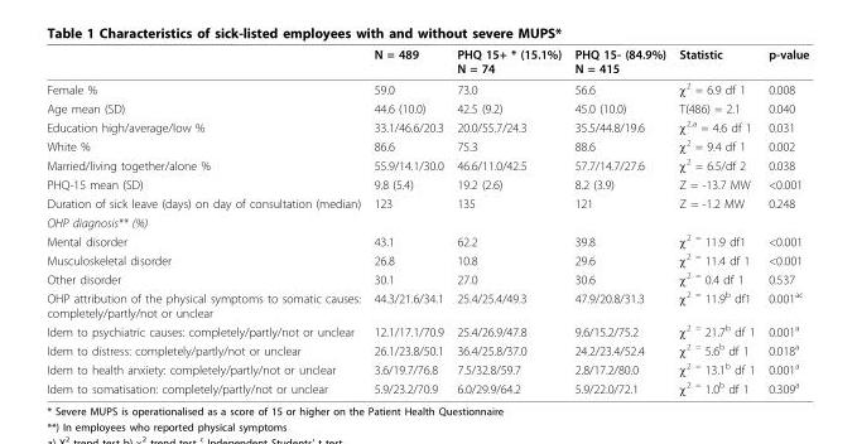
<table><thead><tr><td></td><td>N = 489</td><td>PHQ 15+ * (15.1%) N = 74</td><td>PHQ 15- (84.9%) N = 415</td><td>Statistic</td><td>p-value</td></tr></thead><tbody><tr><td>Female %</td><td>59.0</td><td>73.0</td><td>56.6</td><td>χ<sup>2</sup> = 6.9 df 1</td><td>0.008</td></tr><tr><td>Age mean (SD)</td><td>44.6 (10.0)</td><td>42.5 (9.2)</td><td>45.0 (10.0)</td><td>T(486) = 2.1</td><td>0.040</td></tr><tr><td>Education high/average/low %</td><td>33.1/46.6/20.3</td><td>20.0/55.7/24.3</td><td>35.5/44.8/19.6</td><td>χ<sup>2,a</sup> = 4.6 df 1</td><td>0.031</td></tr><tr><td>White %</td><td>86.6</td><td>75.3</td><td>88.6</td><td>χ<sup>2</sup> = 9.4 df 1</td><td>0.002</td></tr><tr><td>Married/living together/alone %</td><td>55.9/14.1/30.0</td><td>46.6/11.0/42.5</td><td>57.7/14.7/27.6</td><td>χ<sup>2</sup> = 6.5/df 2</td><td>0.038</td></tr><tr><td>PHQ-15 mean (SD)</td><td>9.8 (5.4)</td><td>19.2 (2.6)</td><td>8.2 (3.9)</td><td>Z = -13.7 MW</td><td>&lt;0.001</td></tr><tr><td>Duration of sick leave (days) on day of consultation (median)</td><td>123</td><td>135</td><td>121</td><td>Z = -1.2 MW</td><td>0.248</td></tr><tr><td colspan="6">OHP diagnosis** (%)</td></tr><tr><td>Mental disorder</td><td>43.1</td><td>62.2</td><td>39.8</td><td>χ<sup>2 =</sup> 11.9 df1</td><td>&lt;0.001</td></tr><tr><td>Musculoskeletal disorder</td><td>26.8</td><td>10.8</td><td>29.6</td><td>χ<sup>2 =</sup> 11.4 df 1</td><td>&lt;0.001</td></tr><tr><td>Other disorder</td><td>30.1</td><td>27.0</td><td>30.6</td><td>χ<sup>2 =</sup> 0.4 df 1</td><td>0.537</td></tr><tr><td>OHP attribution of the physical symptoms to somatic causes: completely/partly/not or unclear</td><td>44.3/21.6/34.1</td><td>25.4/25.4/49.3</td><td>47.9/20.8/31.3</td><td>χ<sup>2 =</sup> 11.9<sup>b</sup> df1</td><td>0.001<sup>ac</sup></td></tr><tr><td>Idem to psychiatric causes: completely/partly/not or unclear</td><td>12.1/17.1/70.9</td><td>25.4/26.9/47.8</td><td>9.6/15.2/75.2</td><td>χ<sup>2 =</sup> 21.7<sup>b</sup> df 1</td><td>0.001<sup>a</sup></td></tr><tr><td>Idem to distress: completely/partly/not or unclear</td><td>26.1/23.8/50.1</td><td>36.4/25.8/37.0</td><td>24.2/23.4/52.4</td><td>χ<sup>2 =</sup> 5.6<sup>b</sup> df 1</td><td>0.018<sup>a</sup></td></tr><tr><td>Idem to health anxiety: completely/partly/not or unclear</td><td>3.6/19.7/76.8</td><td>7.5/32.8/59.7</td><td>2.8/17.2/80.0</td><td>χ<sup>2 =</sup> 13.1<sup>b</sup> df 1</td><td>0.001<sup>a</sup></td></tr><tr><td>Idem to somatisation: completely/partly/not or unclear</td><td>5.9/23.2/70.9</td><td>6.0/29.9/64.2</td><td>5.9/22.0/72.1</td><td>χ<sup>2 =</sup> 1.0<sup>b</sup> df 1</td><td>0.309<sup>a</sup></td></tr></tbody></table>